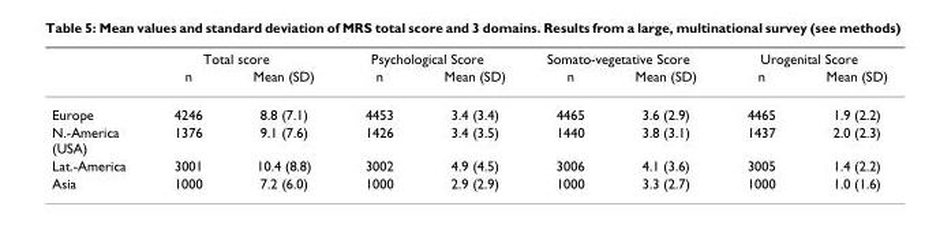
<table><thead><tr><td rowspan="2"></td><td colspan="2">Total score</td><td colspan="2">Psychological Score</td><td colspan="2">Somato-vegetative Score</td><td colspan="2">Urogenital Score</td></tr><tr><td>n</td><td>Mean (SD)</td><td>n</td><td>Mean (SD)</td><td>n</td><td>Mean (SD)</td><td>n</td><td>Mean (SD)</td></tr></thead><tbody><tr><td>Europe</td><td>4246</td><td>8.8 (7.1)</td><td>4453</td><td>3.4 (3.4)</td><td>4465</td><td>3.6 (2.9)</td><td>4465</td><td>1.9 (2.2)</td></tr><tr><td>N.-America (USA)</td><td>1376</td><td>9.1 (7.6)</td><td>1426</td><td>3.4 (3.5)</td><td>1440</td><td>3.8 (3.1)</td><td>1437</td><td>2.0 (2.3)</td></tr><tr><td>Lat.-America</td><td>3001</td><td>10.4 (8.8)</td><td>3002</td><td>4.9 (4.5)</td><td>3006</td><td>4.1 (3.6)</td><td>3005</td><td>1.4 (2.2)</td></tr><tr><td>Asia</td><td>1000</td><td>7.2 (6.0)</td><td>1000</td><td>2.9 (2.9)</td><td>1000</td><td>3.3 (2.7)</td><td>1000</td><td>1.0 (1.6)</td></tr></tbody></table>